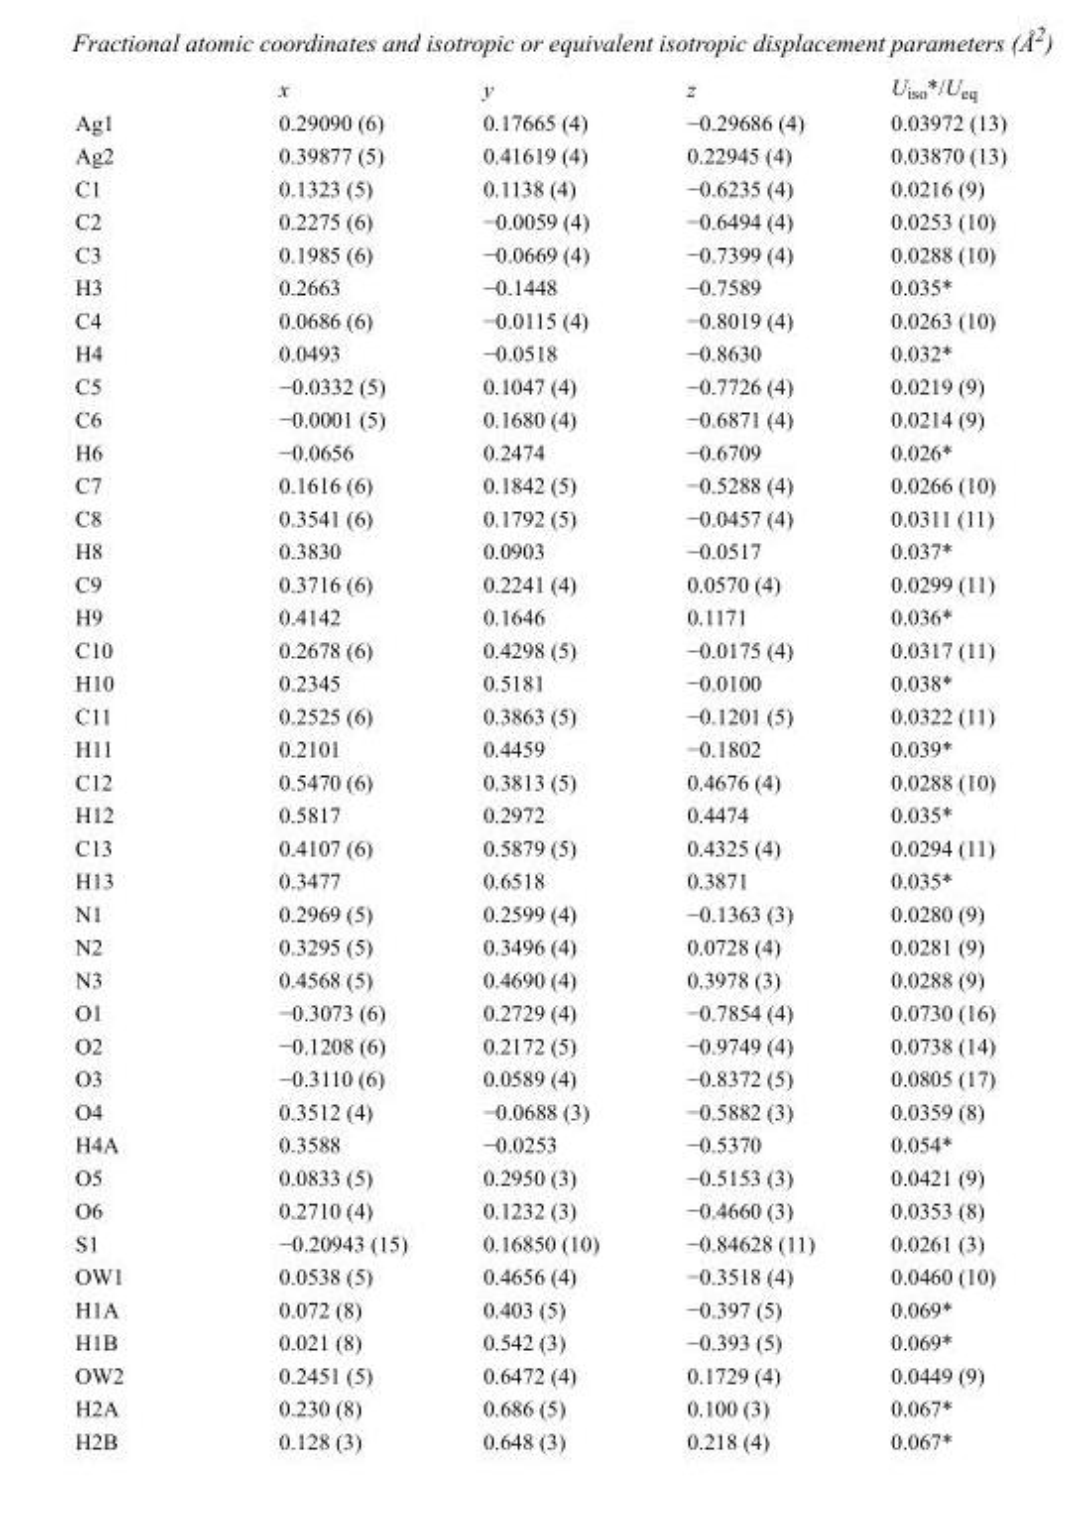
<table><thead><tr><td></td><td>x</td><td>y</td><td>z</td><td>U<sub>iso</sub>*/U<sub>eq</sub></td></tr></thead><tbody><tr><td>Ag1</td><td>0.29090 (6)</td><td>0.17665 (4)</td><td>−0.29686 (4)</td><td>0.03972 (13)</td></tr><tr><td>Ag2</td><td>0.39877 (5)</td><td>0.41619 (4)</td><td>0.22945 (4)</td><td>0.03870 (13)</td></tr><tr><td>C1</td><td>0.1323 (5)</td><td>0.1138 (4)</td><td>−0.6235 (4)</td><td>0.0216 (9)</td></tr><tr><td>C2</td><td>0.2275 (6)</td><td>−0.0059 (4)</td><td>−0.6494 (4)</td><td>0.0253 (10)</td></tr><tr><td>C3</td><td>0.1985 (6)</td><td>−0.0669 (4)</td><td>−0.7399 (4)</td><td>0.0288 (10)</td></tr><tr><td>H3</td><td>0.2663</td><td>−0.1448</td><td>−0.7589</td><td>0.035*</td></tr><tr><td>C4</td><td>0.0686 (6)</td><td>−0.0115 (4)</td><td>−0.8019 (4)</td><td>0.0263 (10)</td></tr><tr><td>H4</td><td>0.0493</td><td>−0.0518</td><td>−0.8630</td><td>0.032*</td></tr><tr><td>C5</td><td>−0.0332 (5)</td><td>0.1047 (4)</td><td>−0.7726 (4)</td><td>0.0219 (9)</td></tr><tr><td>C6</td><td>−0.0001 (5)</td><td>0.1680 (4)</td><td>−0.6871 (4)</td><td>0.0214 (9)</td></tr><tr><td>H6</td><td>−0.0656</td><td>0.2474</td><td>−0.6709</td><td>0.026*</td></tr><tr><td>C7</td><td>0.1616 (6)</td><td>0.1842 (5)</td><td>−0.5288 (4)</td><td>0.0266 (10)</td></tr><tr><td>C8</td><td>0.3541 (6)</td><td>0.1792 (5)</td><td>−0.0457 (4)</td><td>0.0311 (11)</td></tr><tr><td>H8</td><td>0.3830</td><td>0.0903</td><td>−0.0517</td><td>0.037*</td></tr><tr><td>C9</td><td>0.3716 (6)</td><td>0.2241 (4)</td><td>0.0570 (4)</td><td>0.0299 (11)</td></tr><tr><td>H9</td><td>0.4142</td><td>0.1646</td><td>0.1171</td><td>0.036*</td></tr><tr><td>C10</td><td>0.2678 (6)</td><td>0.4298 (5)</td><td>−0.0175 (4)</td><td>0.0317 (11)</td></tr><tr><td>H10</td><td>0.2345</td><td>0.5181</td><td>−0.0100</td><td>0.038*</td></tr><tr><td>C11</td><td>0.2525 (6)</td><td>0.3863 (5)</td><td>−0.1201 (5)</td><td>0.0322 (11)</td></tr><tr><td>H11</td><td>0.2101</td><td>0.4459</td><td>−0.1802</td><td>0.039*</td></tr><tr><td>C12</td><td>0.5470 (6)</td><td>0.3813 (5)</td><td>0.4676 (4)</td><td>0.0288 (10)</td></tr><tr><td>H12</td><td>0.5817</td><td>0.2972</td><td>0.4474</td><td>0.035*</td></tr><tr><td>C13</td><td>0.4107 (6)</td><td>0.5879 (5)</td><td>0.4325 (4)</td><td>0.0294 (11)</td></tr><tr><td>H13</td><td>0.3477</td><td>0.6518</td><td>0.3871</td><td>0.035*</td></tr><tr><td>N1</td><td>0.2969 (5)</td><td>0.2599 (4)</td><td>−0.1363 (3)</td><td>0.0280 (9)</td></tr><tr><td>N2</td><td>0.3295 (5)</td><td>0.3496 (4)</td><td>0.0728 (4)</td><td>0.0281 (9)</td></tr><tr><td>N3</td><td>0.4568 (5)</td><td>0.4690 (4)</td><td>0.3978 (3)</td><td>0.0288 (9)</td></tr><tr><td>O1</td><td>−0.3073 (6)</td><td>0.2729 (4)</td><td>−0.7854 (4)</td><td>0.0730 (16)</td></tr><tr><td>O2</td><td>−0.1208 (6)</td><td>0.2172 (5)</td><td>−0.9749 (4)</td><td>0.0738 (14)</td></tr><tr><td>O3</td><td>−0.3110 (6)</td><td>0.0589 (4)</td><td>−0.8372 (5)</td><td>0.0805 (17)</td></tr><tr><td>O4</td><td>0.3512 (4)</td><td>−0.0688 (3)</td><td>−0.5882 (3)</td><td>0.0359 (8)</td></tr><tr><td>H4A</td><td>0.3588</td><td>−0.0253</td><td>−0.5370</td><td>0.054*</td></tr><tr><td>O5</td><td>0.0833 (5)</td><td>0.2950 (3)</td><td>−0.5153 (3)</td><td>0.0421 (9)</td></tr><tr><td>O6</td><td>0.2710 (4)</td><td>0.1232 (3)</td><td>−0.4660 (3)</td><td>0.0353 (8)</td></tr><tr><td>S1</td><td>−0.20943 (15)</td><td>0.16850 (10)</td><td>−0.84628 (11)</td><td>0.0261 (3)</td></tr><tr><td>OW1</td><td>0.0538 (5)</td><td>0.4656 (4)</td><td>−0.3518 (4)</td><td>0.0460 (10)</td></tr><tr><td>H1A</td><td>0.072 (8)</td><td>0.403 (5)</td><td>−0.397 (5)</td><td>0.069*</td></tr><tr><td>H1B</td><td>0.021 (8)</td><td>0.542 (3)</td><td>−0.393 (5)</td><td>0.069*</td></tr><tr><td>OW2</td><td>0.2451 (5)</td><td>0.6472 (4)</td><td>0.1729 (4)</td><td>0.0449 (9)</td></tr><tr><td>H2A</td><td>0.230 (8)</td><td>0.686 (5)</td><td>0.100 (3)</td><td>0.067*</td></tr><tr><td>H2B</td><td>0.128 (3)</td><td>0.648 (3)</td><td>0.218 (4)</td><td>0.067*</td></tr></tbody></table>